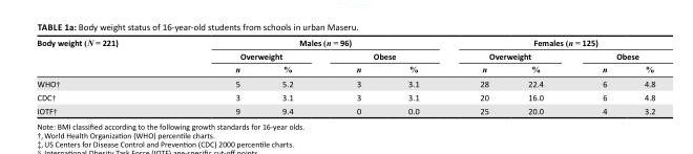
<table><thead><tr><td rowspan="3">Body weight (N = 221)</td><td colspan="4">Males (n = 96)</td><td colspan="4">Females (n = 125)</td></tr><tr><td colspan="2">Overweight</td><td colspan="2">Obese</td><td colspan="2">Overweight</td><td colspan="2">Obese</td></tr><tr><td>n</td><td>%</td><td>n</td><td>%</td><td>n</td><td>%</td><td>n</td><td>%</td></tr></thead><tbody><tr><td>WHO†</td><td>5</td><td>5.2</td><td>3</td><td>3.1</td><td>28</td><td>22.4</td><td>6</td><td>4.8</td></tr><tr><td>CDC†</td><td>3</td><td>3.1</td><td>3</td><td>3.1</td><td>20</td><td>16.0</td><td>6</td><td>4.8</td></tr><tr><td>IOTF†</td><td>9</td><td>9.4</td><td>0</td><td>0.0</td><td>25</td><td>20.0</td><td>4</td><td>3.2</td></tr></tbody></table>